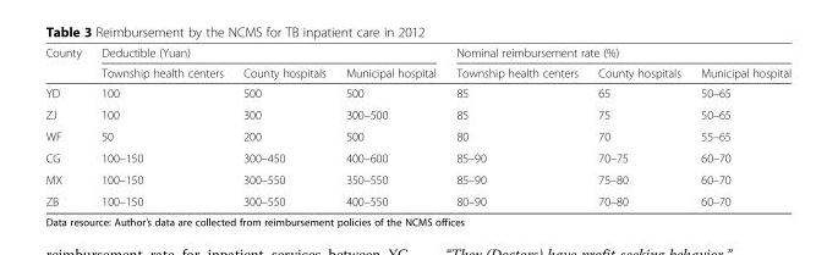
<table><thead><tr><td rowspan="2">County</td><td colspan="3">Deductible (Yuan)</td><td colspan="3">Nominal reimbursement rate (%)</td></tr><tr><td>Township health centers</td><td>County hospitals</td><td>Municipal hospital</td><td>Township health centers</td><td>County hospitals</td><td>Municipal hospital</td></tr></thead><tbody><tr><td>YD</td><td>100</td><td>500</td><td>500</td><td>85</td><td>65</td><td>50–65</td></tr><tr><td>ZJ</td><td>100</td><td>300</td><td>300–500</td><td>85</td><td>75</td><td>50–65</td></tr><tr><td>WF</td><td>50</td><td>200</td><td>500</td><td>80</td><td>70</td><td>55–65</td></tr><tr><td>CG</td><td>100–150</td><td>300–450</td><td>400–600</td><td>85–90</td><td>70–75</td><td>60–70</td></tr><tr><td>MX</td><td>100–150</td><td>300–550</td><td>350–550</td><td>85–90</td><td>75–80</td><td>60–70</td></tr><tr><td>ZB</td><td>100–150</td><td>300–550</td><td>400–550</td><td>80–90</td><td>70–80</td><td>60–70</td></tr></tbody></table>